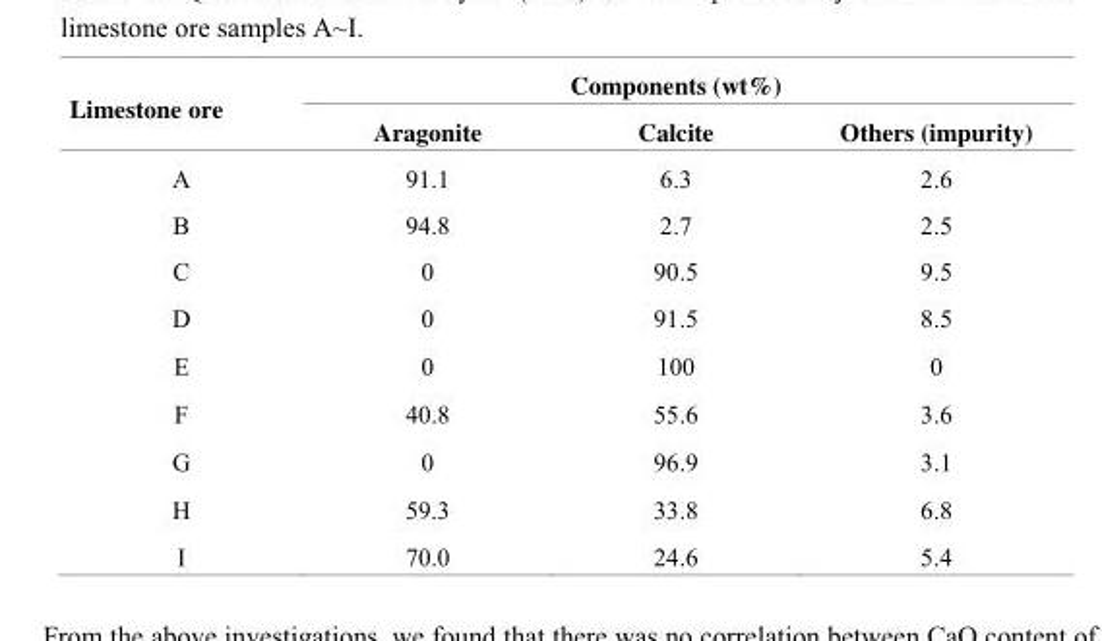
<table><thead><tr><td rowspan="2">Limestone ore</td><td colspan="3">Components (wt%)</td></tr><tr><td>Aragonite</td><td>Calcite</td><td>Others (impurity)</td></tr></thead><tbody><tr><td>A</td><td>91.1</td><td>6.3</td><td>2.6</td></tr><tr><td>B</td><td>94.8</td><td>2.7</td><td>2.5</td></tr><tr><td>C</td><td>0</td><td>90.5</td><td>9.5</td></tr><tr><td>D</td><td>0</td><td>91.5</td><td>8.5</td></tr><tr><td>E</td><td>0</td><td>100</td><td>0</td></tr><tr><td>F</td><td>40.8</td><td>55.6</td><td>3.6</td></tr><tr><td>G</td><td>0</td><td>96.9</td><td>3.1</td></tr><tr><td>H</td><td>59.3</td><td>33.8</td><td>6.8</td></tr><tr><td>I</td><td>70.0</td><td>24.6</td><td>5.4</td></tr></tbody></table>